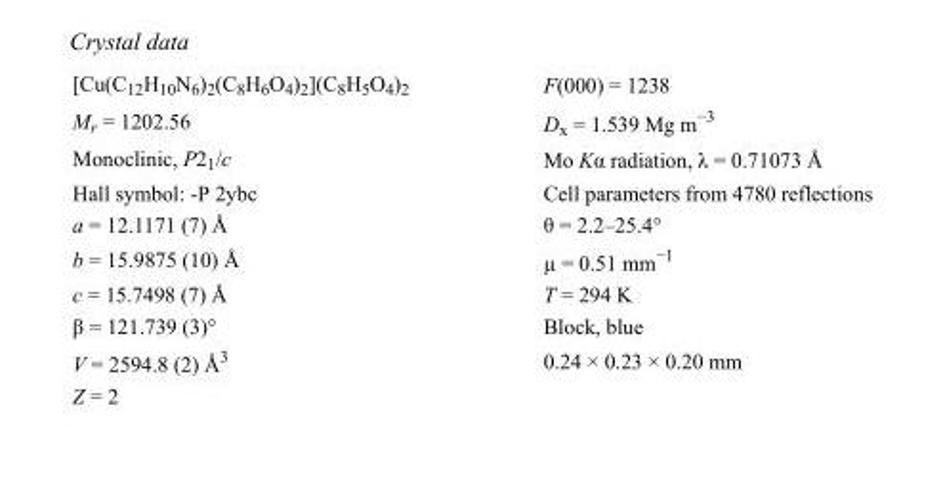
<table><tbody><tr><td>[Cu(C<sub>12</sub>H<sub>10</sub>N<sub>6</sub>)<sub>2</sub>(C<sub>8</sub>H<sub>6</sub>O<sub>4</sub>)<sub>2</sub>](C<sub>8</sub>H<sub>5</sub>O<sub>4</sub>)<sub>2</sub></td><td>F(000) = 1238</td></tr><tr><td>M<sub>r</sub> = 1202.56</td><td>D<sub>x</sub> = 1.539 Mg m<sup>−3</sup></td></tr><tr><td>Monoclinic, P2<sub>1</sub>/c</td><td>Mo Kα radiation, λ = 0.71073 Å</td></tr><tr><td>Hall symbol: -P 2ybc</td><td>Cell parameters from 4780 reflections</td></tr><tr><td>a = 12.1171 (7) Å</td><td>θ = 2.2–25.4°</td></tr><tr><td>b = 15.9875 (10) Å</td><td>µ = 0.51 mm<sup>−1</sup></td></tr><tr><td>c = 15.7498 (7) Å</td><td>T = 294 K</td></tr><tr><td>β = 121.739 (3)°</td><td>Block, blue</td></tr><tr><td>V = 2594.8 (2) Å<sup>3</sup></td><td>0.24 × 0.23 × 0.20 mm</td></tr><tr><td>Z = 2</td><td></td></tr></tbody></table>